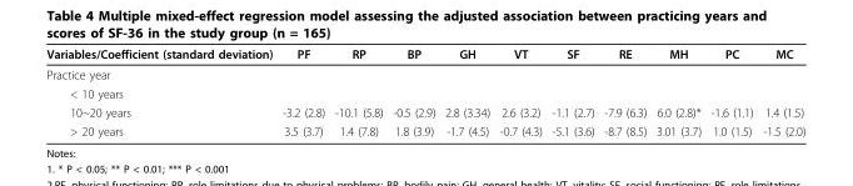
<table><thead><tr><td>Variables/Coefficient (standard deviation)</td><td>PF</td><td>RP</td><td>BP</td><td>GH</td><td>VT</td><td>SF</td><td>RE</td><td>MH</td><td>PC</td><td>MC</td></tr></thead><tbody><tr><td colspan="11">Practice year</td></tr><tr><td colspan="11">&lt; 10 years</td></tr><tr><td>10~20 years</td><td>-3.2 (2.8)</td><td>-10.1 (5.8)</td><td>-0.5 (2.9)</td><td>2.8 (3.34)</td><td>2.6 (3.2)</td><td>-1.1 (2.7)</td><td>-7.9 (6.3)</td><td>6.0 (2.8)*</td><td>-1.6 (1.1)</td><td>1.4 (1.5)</td></tr><tr><td>&gt; 20 years</td><td>3.5 (3.7)</td><td>1.4 (7.8)</td><td>1.8 (3.9)</td><td>-1.7 (4.5)</td><td>-0.7 (4.3)</td><td>-5.1 (3.6)</td><td>-8.7 (8.5)</td><td>3.01 (3.7)</td><td>1.0 (1.5)</td><td>-1.5 (2.0)</td></tr></tbody></table>